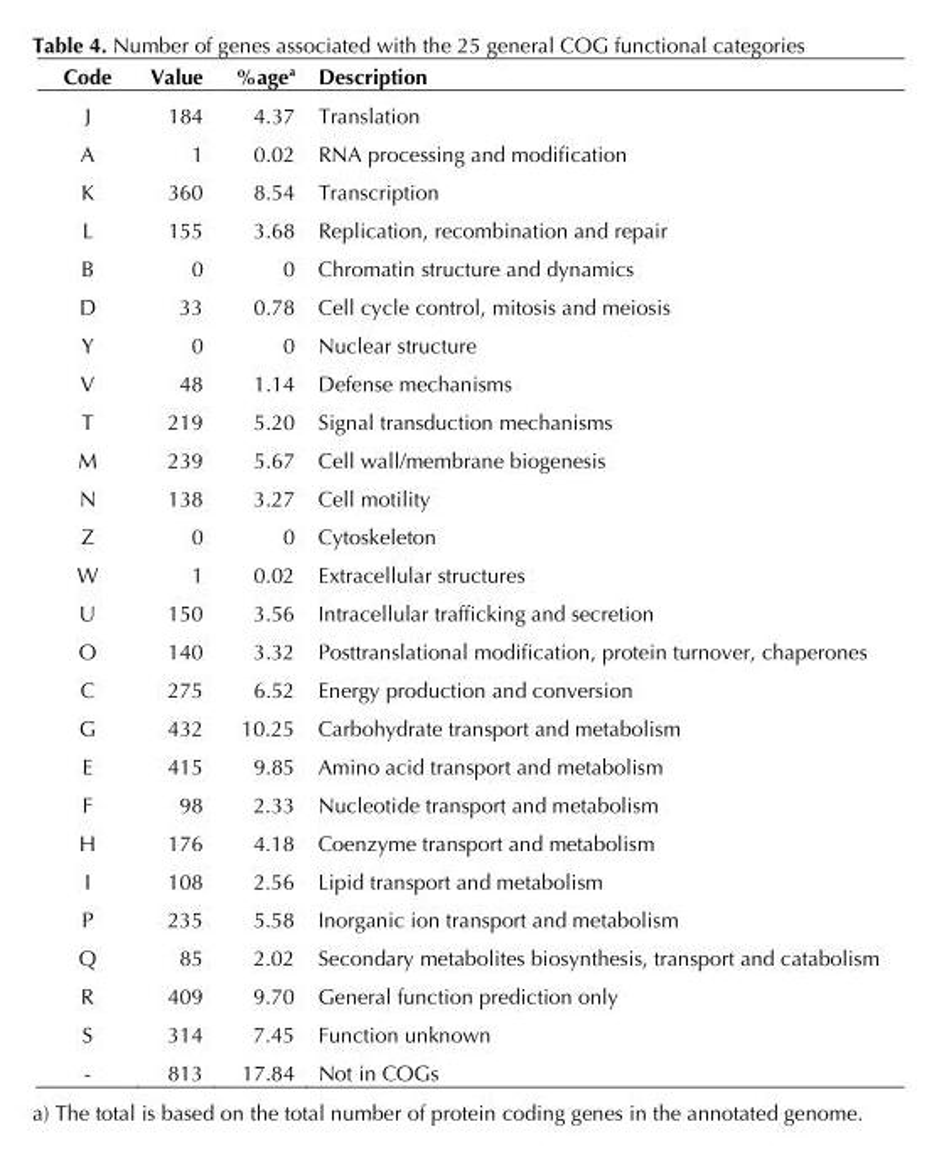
<table><thead><tr><td>Code</td><td>Value</td><td>%age<sup>a</sup></td><td>Description</td></tr></thead><tbody><tr><td>J</td><td>184</td><td>4.37</td><td>Translation</td></tr><tr><td>A</td><td>1</td><td>0.02</td><td>RNA processing and modification</td></tr><tr><td>K</td><td>360</td><td>8.54</td><td>Transcription</td></tr><tr><td>L</td><td>155</td><td>3.68</td><td>Replication, recombination and repair</td></tr><tr><td>B</td><td>0</td><td>0</td><td>Chromatin structure and dynamics</td></tr><tr><td>D</td><td>33</td><td>0.78</td><td>Cell cycle control, mitosis and meiosis</td></tr><tr><td>Y</td><td>0</td><td>0</td><td>Nuclear structure</td></tr><tr><td>V</td><td>48</td><td>1.14</td><td>Defense mechanisms</td></tr><tr><td>T</td><td>219</td><td>5.20</td><td>Signal transduction mechanisms</td></tr><tr><td>M</td><td>239</td><td>5.67</td><td>Cell wall/membrane biogenesis</td></tr><tr><td>N</td><td>138</td><td>3.27</td><td>Cell motility</td></tr><tr><td>Z</td><td>0</td><td>0</td><td>Cytoskeleton</td></tr><tr><td>W</td><td>1</td><td>0.02</td><td>Extracellular structures</td></tr><tr><td>U</td><td>150</td><td>3.56</td><td>Intracellular trafficking and secretion</td></tr><tr><td>O</td><td>140</td><td>3.32</td><td>Posttranslational modification, protein turnover, chaperones</td></tr><tr><td>C</td><td>275</td><td>6.52</td><td>Energy production and conversion</td></tr><tr><td>G</td><td>432</td><td>10.25</td><td>Carbohydrate transport and metabolism</td></tr><tr><td>E</td><td>415</td><td>9.85</td><td>Amino acid transport and metabolism</td></tr><tr><td>F</td><td>98</td><td>2.33</td><td>Nucleotide transport and metabolism</td></tr><tr><td>H</td><td>176</td><td>4.18</td><td>Coenzyme transport and metabolism</td></tr><tr><td>I</td><td>108</td><td>2.56</td><td>Lipid transport and metabolism</td></tr><tr><td>P</td><td>235</td><td>5.58</td><td>Inorganic ion transport and metabolism</td></tr><tr><td>Q</td><td>85</td><td>2.02</td><td>Secondary metabolites biosynthesis, transport and catabolism</td></tr><tr><td>R</td><td>409</td><td>9.70</td><td>General function prediction only</td></tr><tr><td>S</td><td>314</td><td>7.45</td><td>Function unknown</td></tr><tr><td>-</td><td>813</td><td>17.84</td><td>Not in COGs</td></tr></tbody></table>